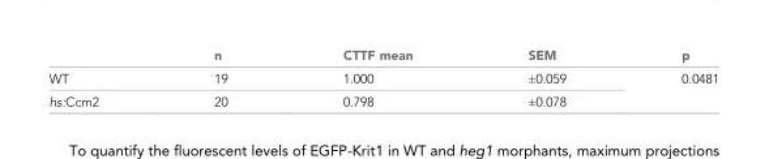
<table><thead><tr><td></td><td>n</td><td>CTTF mean</td><td>SEM</td><td>p</td></tr></thead><tbody><tr><td>WT</td><td>19</td><td>1.000</td><td>±0.059</td><td rowspan="2">0.0481</td></tr><tr><td>hs:Ccm2</td><td>20</td><td>0.798</td><td>±0.078</td></tr></tbody></table>